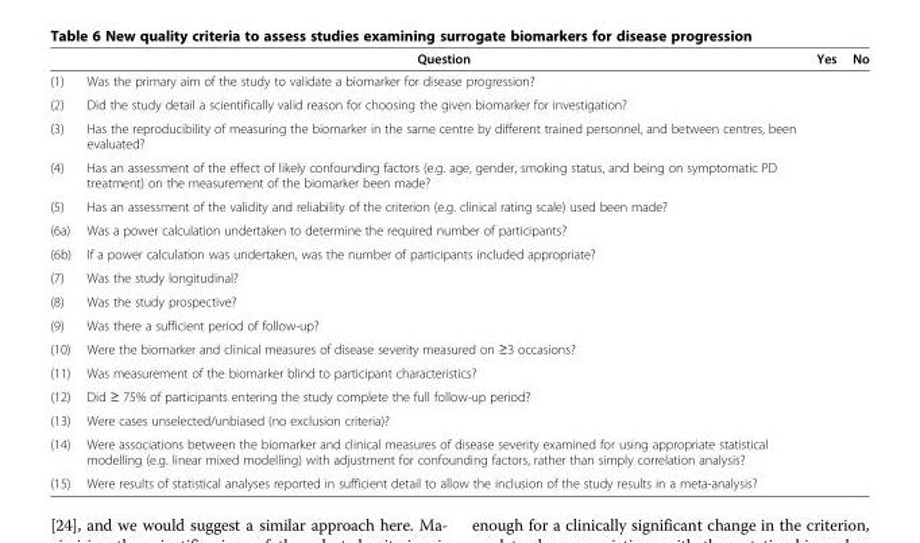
<table><thead><tr><td></td><td>Question</td><td>Yes</td><td>No</td></tr></thead><tbody><tr><td>(1)</td><td>Was the primary aim of the study to validate a biomarker for disease progression?</td><td></td><td></td></tr><tr><td>(2)</td><td>Did the study detail a scientifically valid reason for choosing the given biomarker for investigation?</td><td></td><td></td></tr><tr><td>(3)</td><td>Has the reproducibility of measuring the biomarker in the same centre by different trained personnel, and between centres, been evaluated?</td><td></td><td></td></tr><tr><td>(4)</td><td>Has an assessment of the effect of likely confounding factors (e.g. age, gender, smoking status, and being on symptomatic PD treatment) on the measurement of the biomarker been made?</td><td></td><td></td></tr><tr><td>(5)</td><td>Has an assessment of the validity and reliability of the criterion (e.g. clinical rating scale) used been made?</td><td></td><td></td></tr><tr><td>(6a)</td><td>Was a power calculation undertaken to determine the required number of participants?</td><td></td><td></td></tr><tr><td>(6b)</td><td>If a power calculation was undertaken, was the number of participants included appropriate?</td><td></td><td></td></tr><tr><td>(7)</td><td>Was the study longitudinal?</td><td></td><td></td></tr><tr><td>(8)</td><td>Was the study prospective?</td><td></td><td></td></tr><tr><td>(9)</td><td>Was there a sufficient period of follow-up?</td><td></td><td></td></tr><tr><td>(10)</td><td>Were the biomarker and clinical measures of disease severity measured on ≥3 occasions?</td><td></td><td></td></tr><tr><td>(11)</td><td>Was measurement of the biomarker blind to participant characteristics?</td><td></td><td></td></tr><tr><td>(12)</td><td>Did ≥ 75% of participants entering the study complete the full follow-up period?</td><td></td><td></td></tr><tr><td>(13)</td><td>Were cases unselected/unbiased (no exclusion criteria)?</td><td></td><td></td></tr><tr><td>(14)</td><td>Were associations between the biomarker and clinical measures of disease severity examined for using appropriate statistical modelling (e.g. linear mixed modelling) with adjustment for confounding factors, rather than simply correlation analysis?</td><td></td><td></td></tr><tr><td>(15)</td><td>Were results of statistical analyses reported in sufficient detail to allow the inclusion of the study results in a meta-analysis?</td><td></td><td></td></tr></tbody></table>